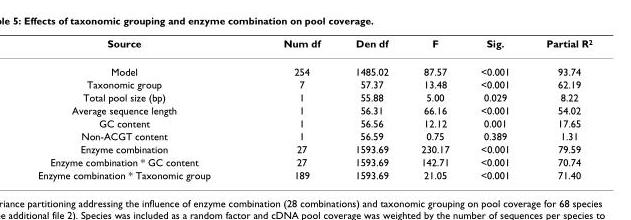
<table><thead><tr><td>Source</td><td>Num df</td><td>Den df</td><td>F</td><td>Sig.</td><td>Partial R<sup>2</sup></td></tr></thead><tbody><tr><td>Model</td><td>254</td><td>1485.02</td><td>87.57</td><td>&lt;0.001</td><td>93.74</td></tr><tr><td>Taxonomic group</td><td>7</td><td>57.37</td><td>13.48</td><td>&lt;0.001</td><td>62.19</td></tr><tr><td>Total pool size (bp)</td><td>1</td><td>55.88</td><td>5.00</td><td>0.029</td><td>8.22</td></tr><tr><td>Average sequence length</td><td>1</td><td>56.31</td><td>66.16</td><td>&lt;0.001</td><td>54.02</td></tr><tr><td>GC content</td><td>1</td><td>56.56</td><td>12.12</td><td>0.001</td><td>17.65</td></tr><tr><td>Non-ACGT content</td><td>1</td><td>56.59</td><td>0.75</td><td>0.389</td><td>1.31</td></tr><tr><td>Enzyme combination</td><td>27</td><td>1593.69</td><td>230.17</td><td>&lt;0.001</td><td>79.59</td></tr><tr><td>Enzyme combination * GC content</td><td>27</td><td>1593.69</td><td>142.71</td><td>&lt;0.001</td><td>70.74</td></tr><tr><td>Enzyme combination * Taxonomic group</td><td>189</td><td>1593.69</td><td>21.05</td><td>&lt;0.001</td><td>71.40</td></tr></tbody></table>